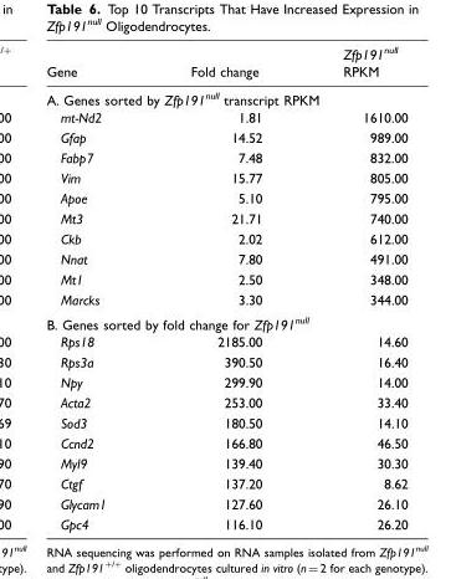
<table><thead><tr><td>Gene</td><td>Fold change</td><td>Zfp191<sup>null</sup> RPKM</td></tr></thead><tbody><tr><td colspan="3">A. Genes sorted by Zfp191<sup>null</sup> transcript RPKM</td></tr><tr><td>mt-Nd2</td><td>1.81</td><td>1610.00</td></tr><tr><td>Gfap</td><td>14.52</td><td>989.00</td></tr><tr><td>Fabp7</td><td>7.48</td><td>832.00</td></tr><tr><td>Vim</td><td>15.77</td><td>805.00</td></tr><tr><td>Apoe</td><td>5.10</td><td>795.00</td></tr><tr><td>Mt3</td><td>21.71</td><td>740.00</td></tr><tr><td>Ckb</td><td>2.02</td><td>612.00</td></tr><tr><td>Nnat</td><td>7.80</td><td>491.00</td></tr><tr><td>Mt1</td><td>2.50</td><td>348.00</td></tr><tr><td>Marcks</td><td>3.30</td><td>344.00</td></tr><tr><td colspan="3">B. Genes sorted by fold change for Zfp191<sup>null</sup></td></tr><tr><td>Rps18</td><td>2185.00</td><td>14.60</td></tr><tr><td>Rps3a</td><td>390.50</td><td>16.40</td></tr><tr><td>Npy</td><td>299.90</td><td>14.00</td></tr><tr><td>Acta2</td><td>253.00</td><td>33.40</td></tr><tr><td>Sod3</td><td>180.50</td><td>14.10</td></tr><tr><td>Ccnd2</td><td>166.80</td><td>46.50</td></tr><tr><td>Myl9</td><td>139.40</td><td>30.30</td></tr><tr><td>Ctgf</td><td>137.20</td><td>8.62</td></tr><tr><td>Glycam1</td><td>127.60</td><td>26.10</td></tr><tr><td>Gpc4</td><td>116.10</td><td>26.20</td></tr></tbody></table>